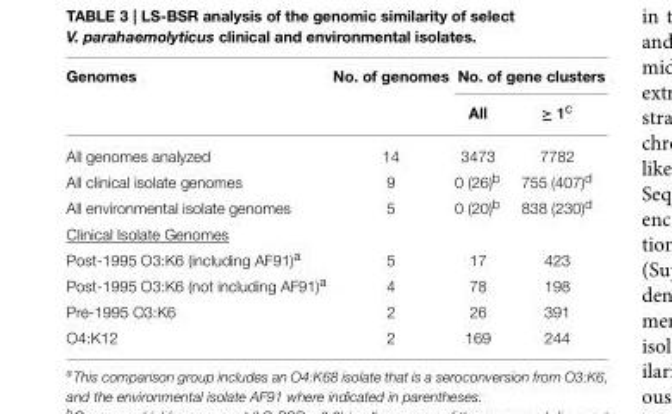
<table><thead><tr><td rowspan="2">Genomes</td><td rowspan="2">No. of genomes</td><td colspan="2">No. of gene clusters</td></tr><tr><td>All</td><td>≥ 1<sup>c</sup></td></tr></thead><tbody><tr><td>All genomes analyzed</td><td>14</td><td>3473</td><td>7782</td></tr><tr><td>All clinical isolate genomes</td><td>9</td><td>0 (26)<sup>b</sup></td><td>755 (407)<sup>d</sup></td></tr><tr><td>All environmental isolate genomes</td><td>5</td><td>0 (20)<sup>b</sup></td><td>838 (230)<sup>d</sup></td></tr><tr><td colspan="4">Clinical Isolate Genomes</td></tr><tr><td>Post-1995 O3:K6 (including AF91)<sup>a</sup></td><td>5</td><td>17</td><td>423</td></tr><tr><td>Post-1995 O3:K6 (not including AF91)<sup>a</sup></td><td>4</td><td>78</td><td>198</td></tr><tr><td>Pre-1995 O3:K6</td><td>2</td><td>26</td><td>391</td></tr><tr><td>O4:K12</td><td>2</td><td>169</td><td>244</td></tr></tbody></table>